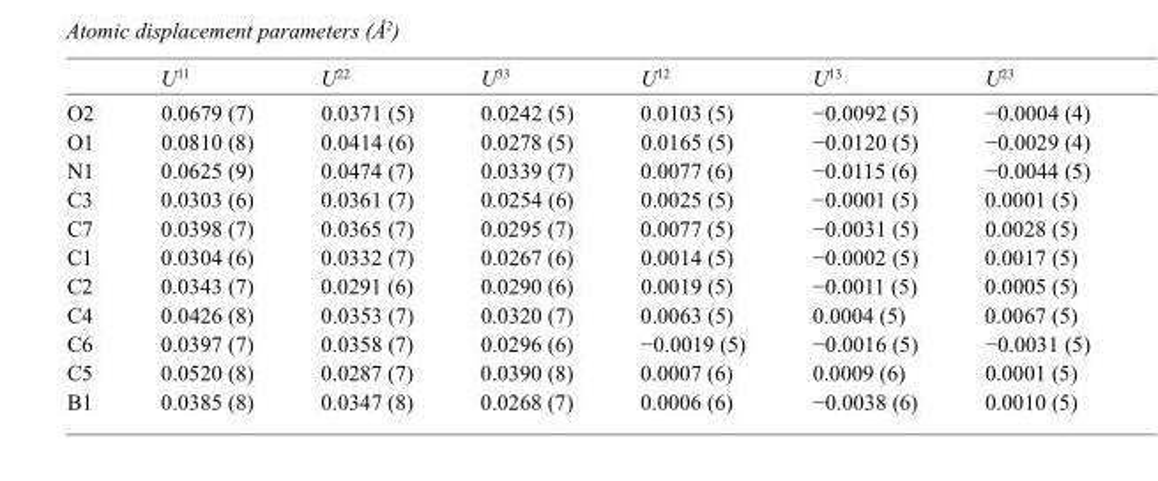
<table><thead><tr><td></td><td>U<sup>11</sup></td><td>U<sup>22</sup></td><td>U<sup>33</sup></td><td>U<sup>12</sup></td><td>U<sup>13</sup></td><td>U<sup>23</sup></td></tr></thead><tbody><tr><td>O2</td><td>0.0679 (7)</td><td>0.0371 (5)</td><td>0.0242 (5)</td><td>0.0103 (5)</td><td>−0.0092 (5)</td><td>−0.0004 (4)</td></tr><tr><td>O1</td><td>0.0810 (8)</td><td>0.0414 (6)</td><td>0.0278 (5)</td><td>0.0165 (5)</td><td>−0.0120 (5)</td><td>−0.0029 (4)</td></tr><tr><td>N1</td><td>0.0625 (9)</td><td>0.0474 (7)</td><td>0.0339 (7)</td><td>0.0077 (6)</td><td>−0.0115 (6)</td><td>−0.0044 (5)</td></tr><tr><td>C3</td><td>0.0303 (6)</td><td>0.0361 (7)</td><td>0.0254 (6)</td><td>0.0025 (5)</td><td>−0.0001 (5)</td><td>0.0001 (5)</td></tr><tr><td>C7</td><td>0.0398 (7)</td><td>0.0365 (7)</td><td>0.0295 (7)</td><td>0.0077 (5)</td><td>−0.0031 (5)</td><td>0.0028 (5)</td></tr><tr><td>C1</td><td>0.0304 (6)</td><td>0.0332 (7)</td><td>0.0267 (6)</td><td>0.0014 (5)</td><td>−0.0002 (5)</td><td>0.0017 (5)</td></tr><tr><td>C2</td><td>0.0343 (7)</td><td>0.0291 (6)</td><td>0.0290 (6)</td><td>0.0019 (5)</td><td>−0.0011 (5)</td><td>0.0005 (5)</td></tr><tr><td>C4</td><td>0.0426 (8)</td><td>0.0353 (7)</td><td>0.0320 (7)</td><td>0.0063 (5)</td><td>0.0004 (5)</td><td>0.0067 (5)</td></tr><tr><td>C6</td><td>0.0397 (7)</td><td>0.0358 (7)</td><td>0.0296 (6)</td><td>−0.0019 (5)</td><td>−0.0016 (5)</td><td>−0.0031 (5)</td></tr><tr><td>C5</td><td>0.0520 (8)</td><td>0.0287 (7)</td><td>0.0390 (8)</td><td>0.0007 (6)</td><td>0.0009 (6)</td><td>0.0001 (5)</td></tr><tr><td>B1</td><td>0.0385 (8)</td><td>0.0347 (8)</td><td>0.0268 (7)</td><td>0.0006 (6)</td><td>−0.0038 (6)</td><td>0.0010 (5)</td></tr></tbody></table>